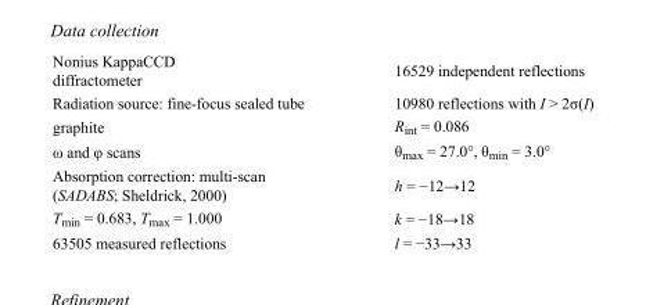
<table><tbody><tr><td>Nonius KappaCCD diffractometer</td><td>16529 independent reflections</td></tr><tr><td>Radiation source: fine-focus sealed tube</td><td>10980 reflections with I &gt; 2σ(I)</td></tr><tr><td>graphite</td><td>R<sub>int</sub> = 0.086</td></tr><tr><td>ω and φ scans</td><td>θ<sub>max</sub> = 27.0°, θ<sub>min</sub> = 3.0°</td></tr><tr><td>Absorption correction: multi-scan (SADABS; Sheldrick, 2000)</td><td>h = −12→12</td></tr><tr><td>T<sub>min</sub> = 0.683, T<sub>max</sub> = 1.000</td><td>k = −18→18</td></tr><tr><td>63505 measured reflections</td><td>l = −33→33</td></tr></tbody></table>